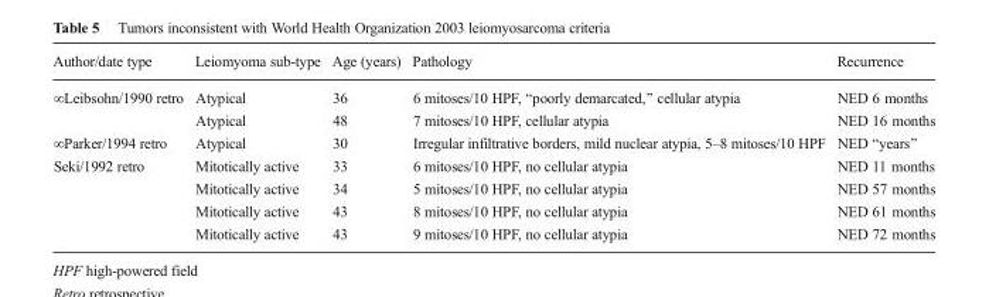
<table><thead><tr><td>Author/date type</td><td>Leiomyoma sub-type</td><td>Age (years)</td><td>Pathology</td><td>Recurrence</td></tr></thead><tbody><tr><td rowspan="2">∞Leibsohn/1990 retro</td><td>Atypical</td><td>36</td><td>6 mitoses/10 HPF, “poorly demarcated,” cellular atypia</td><td>NED 6 months</td></tr><tr><td>Atypical</td><td>48</td><td>7 mitoses/10 HPF, cellular atypia</td><td>NED 16 months</td></tr><tr><td>∞Parker/1994 retro</td><td>Atypical</td><td>30</td><td>Irregular infiltrative borders, mild nuclear atypia, 5–8 mitoses/10 HPF</td><td>NED “years”</td></tr><tr><td rowspan="4">Seki/1992 retro</td><td>Mitotically active</td><td>33</td><td>6 mitoses/10 HPF, no cellular atypia</td><td>NED 11 months</td></tr><tr><td>Mitotically active</td><td>34</td><td>5 mitoses/10 HPF, no cellular atypia</td><td>NED 57 months</td></tr><tr><td>Mitotically active</td><td>43</td><td>8 mitoses/10 HPF, no cellular atypia</td><td>NED 61 months</td></tr><tr><td>Mitotically active</td><td>43</td><td>9 mitoses/10 HPF, no cellular atypia</td><td>NED 72 months</td></tr></tbody></table>